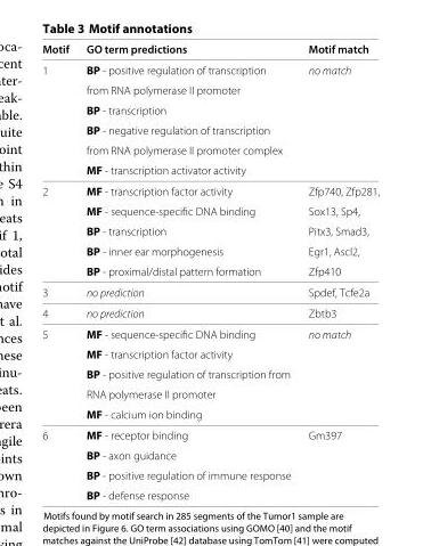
<table><thead><tr><td>Motif</td><td>GO term predictions</td><td>Motif match</td></tr></thead><tbody><tr><td rowspan="6">1</td><td>BP - positive regulation of transcription</td><td>no match</td></tr><tr><td>from RNA polymerase II promoter</td><td></td></tr><tr><td>BP - transcription</td><td></td></tr><tr><td>BP - negative regulation of transcription</td><td></td></tr><tr><td>from RNA polymerase II promoter complex</td><td></td></tr><tr><td>MF - transcription activator activity</td><td></td></tr><tr><td rowspan="5">2</td><td>MF - transcription factor activity</td><td>Zfp740, Zfp281,</td></tr><tr><td>MF - sequence-specific DNA binding</td><td>Sox13, Sp4,</td></tr><tr><td>BP - transcription</td><td>Pitx3, Smad3,</td></tr><tr><td>BP - inner ear morphogenesis</td><td>Egr1, Ascl2,</td></tr><tr><td>BP - proximal/distal pattern formation</td><td>Zfp410</td></tr><tr><td>3</td><td>no prediction</td><td>Spdef, Tcfe2a</td></tr><tr><td>4</td><td>no prediction</td><td>Zbtb3</td></tr><tr><td rowspan="5">5</td><td>MF - sequence-specific DNA binding</td><td>no match</td></tr><tr><td>MF - transcription factor activity</td><td></td></tr><tr><td>BP - positive regulation of transcription from</td><td></td></tr><tr><td>RNA polymerase II promoter</td><td></td></tr><tr><td>MF - calcium ion binding</td><td></td></tr><tr><td rowspan="4">6</td><td>MF - receptor binding</td><td>Gm397</td></tr><tr><td>BP - axon guidance</td><td></td></tr><tr><td>BP - positive regulation of immune response</td><td></td></tr><tr><td>BP - defense response</td><td></td></tr></tbody></table>